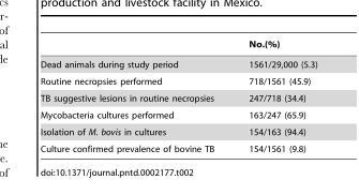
<table><thead><tr><td></td><td>No.(%)</td></tr></thead><tbody><tr><td>Dead animals during study period</td><td>1561/29,000 (5.3)</td></tr><tr><td>Routine necropsies performed</td><td>718/1561 (45.9)</td></tr><tr><td>TB suggestive lesions in routine necropsies</td><td>247/718 (34.4)</td></tr><tr><td>Mycobacteria cultures performed</td><td>163/247 (65.9)</td></tr><tr><td>Isolation of M. bovis in cultures</td><td>154/163 (94.4)</td></tr><tr><td>Culture confirmed prevalence of bovine TB</td><td>154/1561 (9.8)</td></tr></tbody></table>